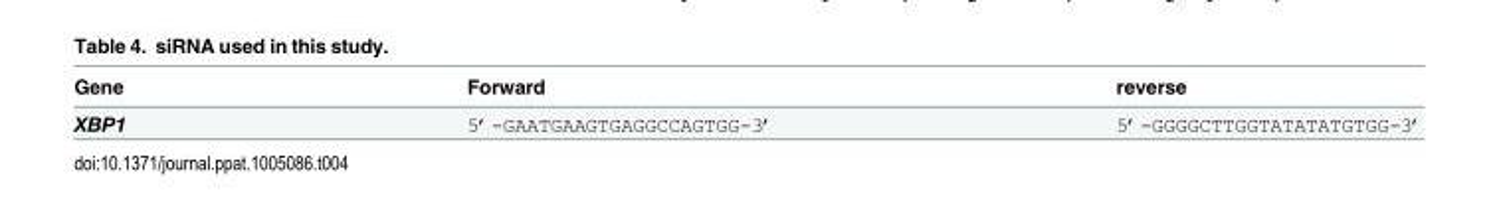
<table><thead><tr><td>Gene</td><td>Forward</td><td>reverse</td></tr></thead><tbody><tr><td>XBP1</td><td>5’-GAATGAAGTGAGGCCAGTGG-3’</td><td>5’-GGGGCTTGGTATATATGTGG-3’</td></tr></tbody></table>